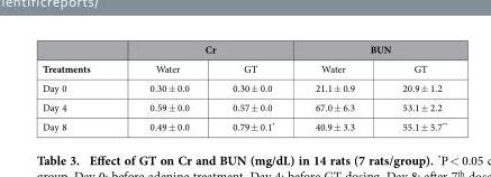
<table><thead><tr><td rowspan="2">Treatments</td><td colspan="2">Cr</td><td colspan="2">BUN</td></tr><tr><td>Water</td><td>GT</td><td>Water</td><td>GT</td></tr></thead><tbody><tr><td>Day 0</td><td>0.30 ± 0.0</td><td>0.30 ± 0.0</td><td>21.1 ± 0.9</td><td>20.9 ± 1.2</td></tr><tr><td>Day 4</td><td>0.59 ± 0.0</td><td>0.57 ± 0.0</td><td>67.0 ± 6.3</td><td>53.1 ± 2.2</td></tr><tr><td>Day 8</td><td>0.49 ± 0.0</td><td>0.79 ± 0.1*</td><td>40.9 ± 3.3</td><td>55.1 ± 5.7**</td></tr></tbody></table>